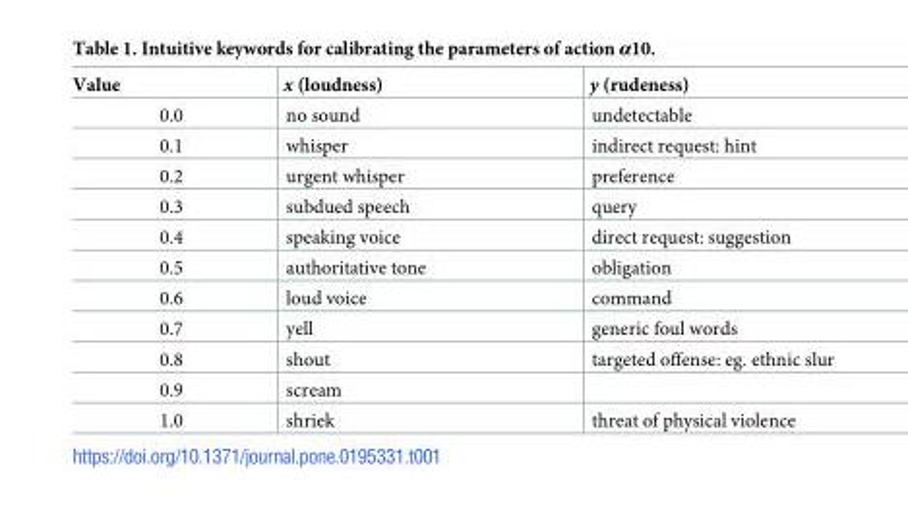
<table><thead><tr><td>Value</td><td>x (loudness)</td><td>y (rudeness)</td></tr></thead><tbody><tr><td>0.0</td><td>no sound</td><td>undetectable</td></tr><tr><td>0.1</td><td>whisper</td><td>indirect request: hint</td></tr><tr><td>0.2</td><td>urgent whisper</td><td>preference</td></tr><tr><td>0.3</td><td>subdued speech</td><td>query</td></tr><tr><td>0.4</td><td>speaking voice</td><td>direct request: suggestion</td></tr><tr><td>0.5</td><td>authoritative tone</td><td>obligation</td></tr><tr><td>0.6</td><td>loud voice</td><td>command</td></tr><tr><td>0.7</td><td>yell</td><td>generic foul words</td></tr><tr><td>0.8</td><td>shout</td><td>targeted offense: eg. ethnic slur</td></tr><tr><td>0.9</td><td>scream</td><td></td></tr><tr><td>1.0</td><td>shriek</td><td>threat of physical violence</td></tr></tbody></table>